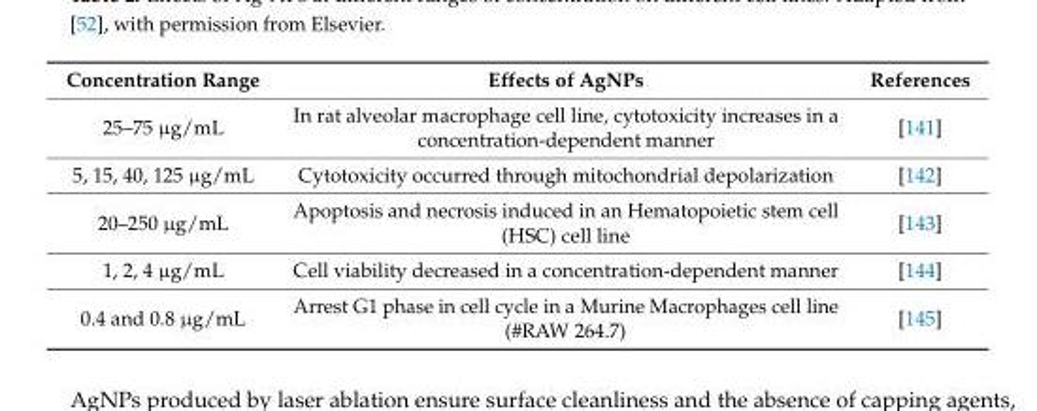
<table><thead><tr><td>Concentration Range</td><td>Effects of AgNPs</td><td>References</td></tr></thead><tbody><tr><td>25–75 µg/mL</td><td>In rat alveolar macrophage cell line, cytotoxicity increases in a concentration-dependent manner</td><td>[141]</td></tr><tr><td>5, 15, 40, 125 µg/mL</td><td>Cytotoxicity occurred through mitochondrial depolarization</td><td>[142]</td></tr><tr><td>20–250 µg/mL</td><td>Apoptosis and necrosis induced in an Hematopoietic stem cell (HSC) cell line</td><td>[143]</td></tr><tr><td>1, 2, 4 µg/mL</td><td>Cell viability decreased in a concentration-dependent manner</td><td>[144]</td></tr><tr><td>0.4 and 0.8 µg/mL</td><td>Arrest G1 phase in cell cycle in a Murine Macrophages cell line (#RAW 264.7)</td><td>[145]</td></tr></tbody></table>